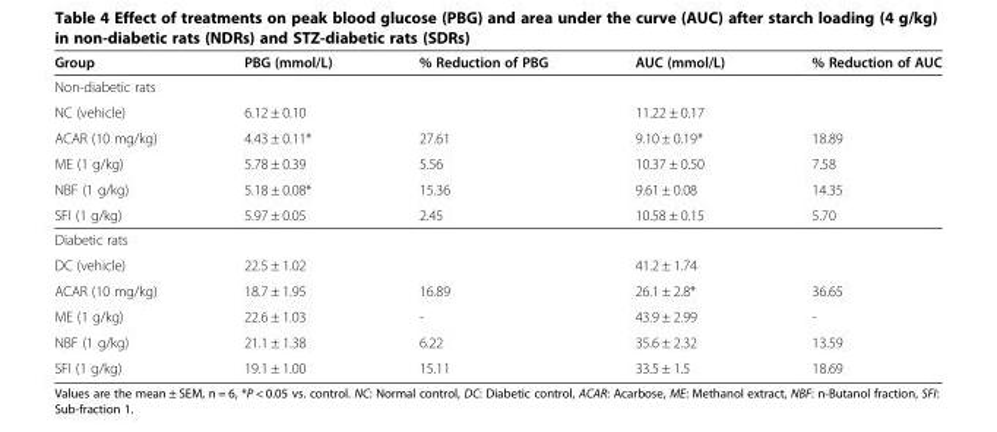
<table><thead><tr><td>Group</td><td>PBG (mmol/L)</td><td>% Reduction of PBG</td><td>AUC (mmol/L)</td><td>% Reduction of AUC</td></tr></thead><tbody><tr><td colspan="5">Non-diabetic rats</td></tr><tr><td>NC (vehicle)</td><td>6.12 ± 0.10</td><td></td><td>11.22 ± 0.17</td><td></td></tr><tr><td>ACAR (10 mg/kg)</td><td>4.43 ± 0.11*</td><td>27.61</td><td>9.10 ± 0.19*</td><td>18.89</td></tr><tr><td>ME (1 g/kg)</td><td>5.78 ± 0.39</td><td>5.56</td><td>10.37 ± 0.50</td><td>7.58</td></tr><tr><td>NBF (1 g/kg)</td><td>5.18 ± 0.08*</td><td>15.36</td><td>9.61 ± 0.08</td><td>14.35</td></tr><tr><td>SFI (1 g/kg)</td><td>5.97 ± 0.05</td><td>2.45</td><td>10.58 ± 0.15</td><td>5.70</td></tr><tr><td colspan="5">Diabetic rats</td></tr><tr><td>DC (vehicle)</td><td>22.5 ± 1.02</td><td></td><td>41.2 ± 1.74</td><td></td></tr><tr><td>ACAR (10 mg/kg)</td><td>18.7 ± 1.95</td><td>16.89</td><td>26.1 ± 2.8*</td><td>36.65</td></tr><tr><td>ME (1 g/kg)</td><td>22.6 ± 1.03</td><td>-</td><td>43.9 ± 2.99</td><td>-</td></tr><tr><td>NBF (1 g/kg)</td><td>21.1 ± 1.38</td><td>6.22</td><td>35.6 ± 2.32</td><td>13.59</td></tr><tr><td>SFI (1 g/kg)</td><td>19.1 ± 1.00</td><td>15.11</td><td>33.5 ± 1.5</td><td>18.69</td></tr></tbody></table>